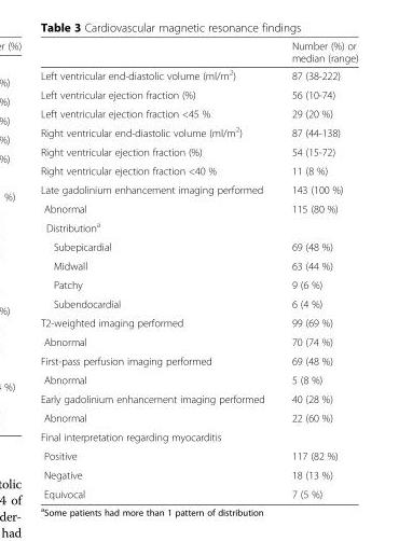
<table><thead><tr><td></td><td>Number (%) or median (range)</td></tr></thead><tbody><tr><td>Left ventricular end-diastolic volume (ml/m<sup>2</sup>)</td><td>87 (38-222)</td></tr><tr><td>Left ventricular ejection fraction (%)</td><td>56 (10-74)</td></tr><tr><td>Left ventricular ejection fraction &lt;45 %</td><td>29 (20 %)</td></tr><tr><td>Right ventricular end-diastolic volume (ml/m<sup>2</sup>)</td><td>87 (44-138)</td></tr><tr><td>Right ventricular ejection fraction (%)</td><td>54 (15-72)</td></tr><tr><td>Right ventricular ejection fraction &lt;40 %</td><td>11 (8 %)</td></tr><tr><td>Late gadolinium enhancement imaging performed</td><td>143 (100 %)</td></tr><tr><td>Abnormal</td><td>115 (80 %)</td></tr><tr><td colspan="2">Distribution<sup>a</sup></td></tr><tr><td>Subepicardial</td><td>69 (48 %)</td></tr><tr><td>Midwall</td><td>63 (44 %)</td></tr><tr><td>Patchy</td><td>9 (6 %)</td></tr><tr><td>Subendocardial</td><td>6 (4 %)</td></tr><tr><td>T2-weighted imaging performed</td><td>99 (69 %)</td></tr><tr><td>Abnormal</td><td>70 (74 %)</td></tr><tr><td>First-pass perfusion imaging performed</td><td>69 (48 %)</td></tr><tr><td>Abnormal</td><td>5 (8 %)</td></tr><tr><td>Early gadolinium enhancement imaging performed</td><td>40 (28 %)</td></tr><tr><td>Abnormal</td><td>22 (60 %)</td></tr><tr><td colspan="2">Final interpretation regarding myocarditis</td></tr><tr><td>Positive</td><td>117 (82 %)</td></tr><tr><td>Negative</td><td>18 (13 %)</td></tr><tr><td>Equivocal</td><td>7 (5 %)</td></tr></tbody></table>